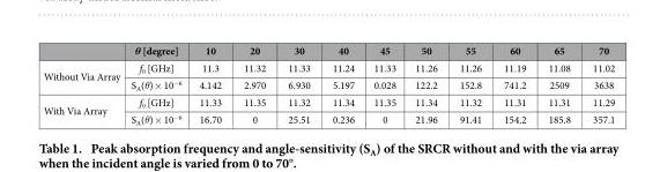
<table><thead><tr><td></td><td>θ [degree]</td><td>10</td><td>20</td><td>30</td><td>40</td><td>45</td><td>50</td><td>55</td><td>60</td><td>65</td><td>70</td></tr></thead><tbody><tr><td rowspan="2">Without Via Array</td><td>f<sub>θ</sub> [GHz]</td><td>11.3</td><td>11.32</td><td>11.33</td><td>11.24</td><td>11.33</td><td>11.26</td><td>11.26</td><td>11.19</td><td>11.08</td><td>11.02</td></tr><tr><td>S<sub>A</sub>(θ) × 10<sup>−6</sup></td><td>4.142</td><td>2.970</td><td>6.930</td><td>5.197</td><td>0.028</td><td>122.2</td><td>152.8</td><td>741.2</td><td>2509</td><td>3638</td></tr><tr><td rowspan="2">With Via Array</td><td>f<sub>θ</sub> [GHz]</td><td>11.33</td><td>11.35</td><td>11.32</td><td>11.34</td><td>11.35</td><td>11.34</td><td>11.32</td><td>11.31</td><td>11.31</td><td>11.29</td></tr><tr><td>S<sub>A</sub>(θ) × 10<sup>−6</sup></td><td>16.70</td><td>0</td><td>25.51</td><td>0.236</td><td>0</td><td>21.96</td><td>91.41</td><td>154.2</td><td>185.8</td><td>357.1</td></tr></tbody></table>